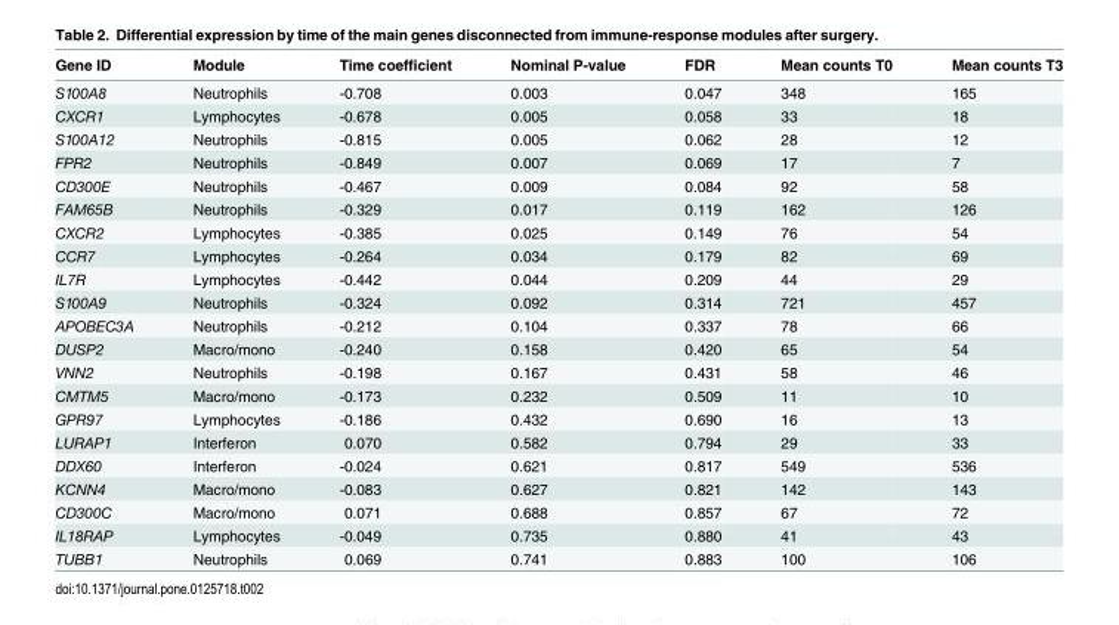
<table><thead><tr><td>Gene ID</td><td>Module</td><td>Time coefficient</td><td>Nominal P-value</td><td>FDR</td><td>Mean counts T0</td><td>Mean counts T3</td></tr></thead><tbody><tr><td>S100A8</td><td>Neutrophils</td><td>-0.708</td><td>0.003</td><td>0.047</td><td>348</td><td>165</td></tr><tr><td>CXCR1</td><td>Lymphocytes</td><td>-0.678</td><td>0.005</td><td>0.058</td><td>33</td><td>18</td></tr><tr><td>S100A12</td><td>Neutrophils</td><td>-0.815</td><td>0.005</td><td>0.062</td><td>28</td><td>12</td></tr><tr><td>FPR2</td><td>Neutrophils</td><td>-0.849</td><td>0.007</td><td>0.069</td><td>17</td><td>7</td></tr><tr><td>CD300E</td><td>Neutrophils</td><td>-0.467</td><td>0.009</td><td>0.084</td><td>92</td><td>58</td></tr><tr><td>FAM65B</td><td>Neutrophils</td><td>-0.329</td><td>0.017</td><td>0.119</td><td>162</td><td>126</td></tr><tr><td>CXCR2</td><td>Lymphocytes</td><td>-0.385</td><td>0.025</td><td>0.149</td><td>76</td><td>54</td></tr><tr><td>CCR7</td><td>Lymphocytes</td><td>-0.264</td><td>0.034</td><td>0.179</td><td>82</td><td>69</td></tr><tr><td>IL7R</td><td>Lymphocytes</td><td>-0.442</td><td>0.044</td><td>0.209</td><td>44</td><td>29</td></tr><tr><td>S100A9</td><td>Neutrophils</td><td>-0.324</td><td>0.092</td><td>0.314</td><td>721</td><td>457</td></tr><tr><td>APOBEC3A</td><td>Neutrophils</td><td>-0.212</td><td>0.104</td><td>0.337</td><td>78</td><td>66</td></tr><tr><td>DUSP2</td><td>Macro/mono</td><td>-0.240</td><td>0.158</td><td>0.420</td><td>65</td><td>54</td></tr><tr><td>VNN2</td><td>Neutrophils</td><td>-0.198</td><td>0.167</td><td>0.431</td><td>58</td><td>46</td></tr><tr><td>CMTM5</td><td>Macro/mono</td><td>-0.173</td><td>0.232</td><td>0.509</td><td>11</td><td>10</td></tr><tr><td>GPR97</td><td>Lymphocytes</td><td>-0.186</td><td>0.432</td><td>0.690</td><td>16</td><td>13</td></tr><tr><td>LURAP1</td><td>Interferon</td><td>0.070</td><td>0.582</td><td>0.794</td><td>29</td><td>33</td></tr><tr><td>DDX60</td><td>Interferon</td><td>-0.024</td><td>0.621</td><td>0.817</td><td>549</td><td>536</td></tr><tr><td>KCNN4</td><td>Macro/mono</td><td>-0.083</td><td>0.627</td><td>0.821</td><td>142</td><td>143</td></tr><tr><td>CD300C</td><td>Macro/mono</td><td>0.071</td><td>0.688</td><td>0.857</td><td>67</td><td>72</td></tr><tr><td>IL18RAP</td><td>Lymphocytes</td><td>-0.049</td><td>0.735</td><td>0.880</td><td>41</td><td>43</td></tr><tr><td>TUBB1</td><td>Neutrophils</td><td>0.069</td><td>0.741</td><td>0.883</td><td>100</td><td>106</td></tr></tbody></table>